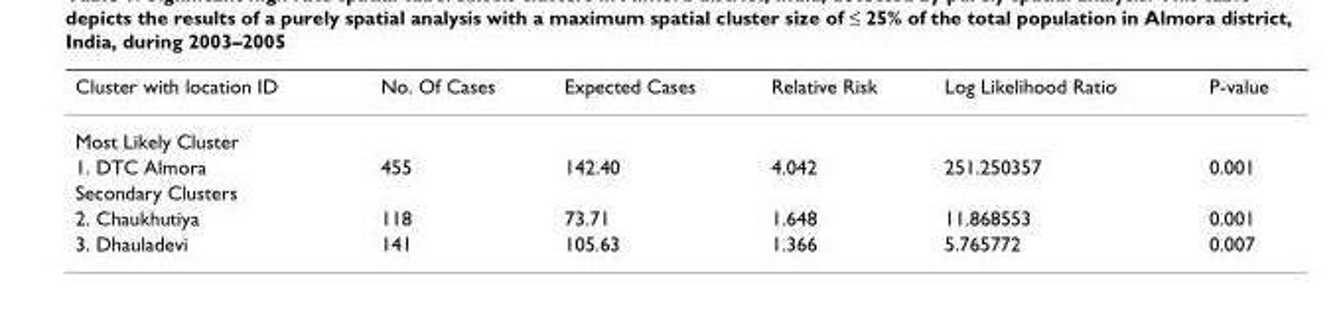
<table><thead><tr><td>Cluster with location ID</td><td>No. Of Cases</td><td>Expected Cases</td><td>Relative Risk</td><td>Log Likelihood Ratio</td><td>P-value</td></tr></thead><tbody><tr><td colspan="6">Most Likely Cluster</td></tr><tr><td>1. DTC Almora</td><td>455</td><td>142.40</td><td>4.042</td><td>251.250357</td><td>0.001</td></tr><tr><td colspan="6">Secondary Clusters</td></tr><tr><td>2. Chaukhutiya</td><td>118</td><td>73.71</td><td>1.648</td><td>11.868553</td><td>0.001</td></tr><tr><td>3. Dhauladevi</td><td>141</td><td>105.63</td><td>1.366</td><td>5.765772</td><td>0.007</td></tr></tbody></table>